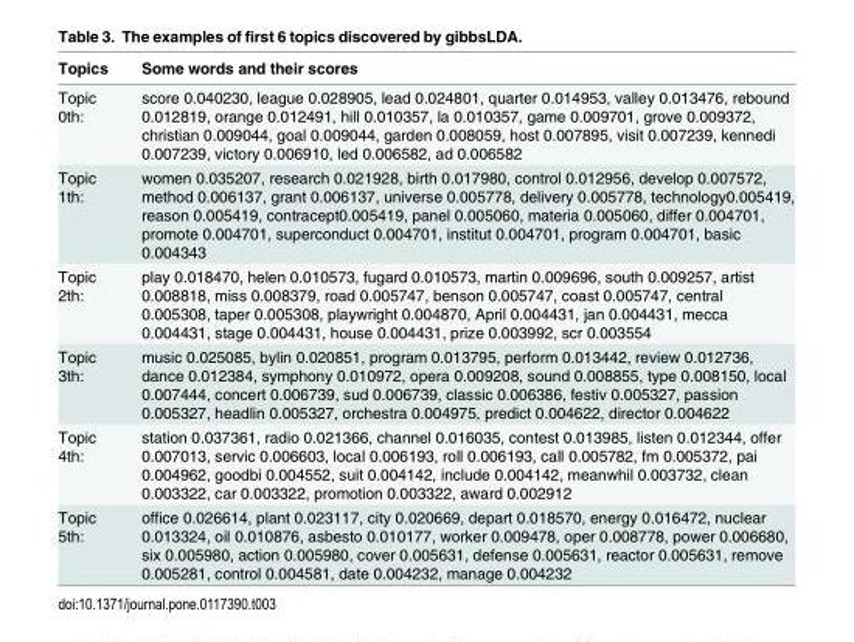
<table><thead><tr><td>Topics</td><td>Some words and their scores</td></tr></thead><tbody><tr><td>Topic 0th:</td><td>score 0.040230, league 0.028905, lead 0.024801, quarter 0.014953, valley 0.013476, rebound 0.012819, orange 0.012491, hill 0.010357, la 0.010357, game 0.009701, grove 0.009372, christian 0.009044, goal 0.009044, garden 0.008059, host 0.007895, visit 0.007239, kennedi 0.007239, victory 0.006910, led 0.006582, ad 0.006582</td></tr><tr><td>Topic 1th:</td><td>women 0.035207, research 0.021928, birth 0.017980, control 0.012956, develop 0.007572, method 0.006137, grant 0.006137, universe 0.005778, delivery 0.005778, technology0.005419, reason 0.005419, contracept0.005419, panel 0.005060, materia 0.005060, differ 0.004701, promote 0.004701, superconduct 0.004701, institut 0.004701, program 0.004701, basic 0.004343</td></tr><tr><td>Topic 2th:</td><td>play 0.018470, helen 0.010573, fugard 0.010573, martin 0.009696, south 0.009257, artist 0.008818, miss 0.008379, road 0.005747, benson 0.005747, coast 0.005747, central 0.005308, taper 0.005308, playwright 0.004870, April 0.004431, jan 0.004431, mecca 0.004431, stage 0.004431, house 0.004431, prize 0.003992, scr 0.003554</td></tr><tr><td>Topic 3th:</td><td>music 0.025085, bylin 0.020851, program 0.013795, perform 0.013442, review 0.012736, dance 0.012384, symphony 0.010972, opera 0.009208, sound 0.008855, type 0.008150, local 0.007444, concert 0.006739, sud 0.006739, classic 0.006386, festiv 0.005327, passion 0.005327, headlin 0.005327, orchestra 0.004975, predict 0.004622, director 0.004622</td></tr><tr><td>Topic 4th:</td><td>station 0.037361, radio 0.021366, channel 0.016035, contest 0.013985, listen 0.012344, offer 0.007013, servic 0.006603, local 0.006193, roll 0.006193, call 0.005782, fm 0.005372, pai 0.004962, goodbi 0.004552, suit 0.004142, include 0.004142, meanwhil 0.003732, clean 0.003322, car 0.003322, promotion 0.003322, award 0.002912</td></tr><tr><td>Topic 5th:</td><td>office 0.026614, plant 0.023117, city 0.020669, depart 0.018570, energy 0.016472, nuclear 0.013324, oil 0.010876, asbesto 0.010177, worker 0.009478, oper 0.008778, power 0.006680, six 0.005980, action 0.005980, cover 0.005631, defense 0.005631, reactor 0.005631, remove 0.005281, control 0.004581, date 0.004232, manage 0.004232</td></tr></tbody></table>